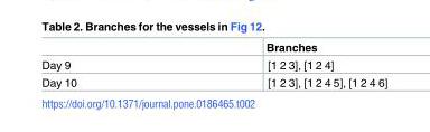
<table><thead><tr><td></td><td>Branches</td></tr></thead><tbody><tr><td>Day 9</td><td>[1 2 3], [1 2 4]</td></tr><tr><td>Day 10</td><td>[1 2 3], [1 2 4 5], [1 2 4 6]</td></tr></tbody></table>